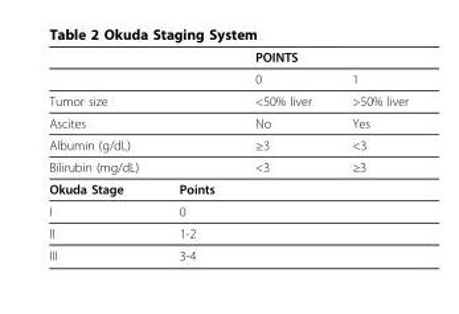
<table><thead><tr><td></td><td></td><td>POINTS</td><td></td></tr></thead><tbody><tr><td></td><td></td><td>0</td><td>1</td></tr><tr><td>Tumor size</td><td></td><td>&lt;50% liver</td><td>&gt;50% liver</td></tr><tr><td>Ascites</td><td></td><td>No</td><td>Yes</td></tr><tr><td>Albumin (g/dL)</td><td></td><td>≥3</td><td>&lt;3</td></tr><tr><td>Bilirubin (mg/dL)</td><td></td><td>&lt;3</td><td>≥3</td></tr><tr><td>Okuda Stage</td><td>Points</td><td></td><td></td></tr><tr><td>I</td><td>0</td><td></td><td></td></tr><tr><td>II</td><td>1-2</td><td></td><td></td></tr><tr><td>III</td><td>3-4</td><td></td><td></td></tr></tbody></table>